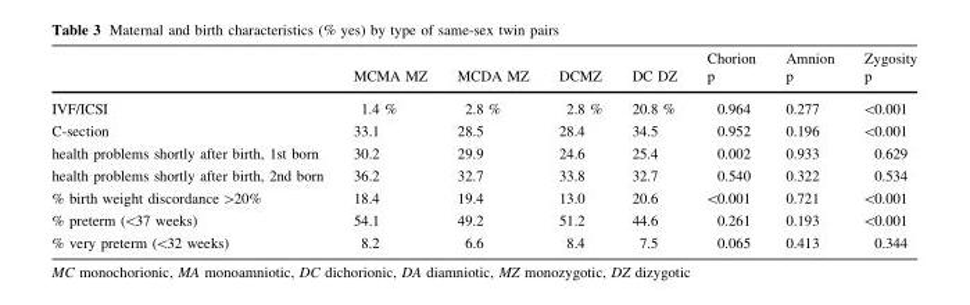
<table><thead><tr><td rowspan="2"></td><td rowspan="2">MCMA MZ</td><td rowspan="2">MCDA MZ</td><td rowspan="2">DCMZ</td><td rowspan="2">DC DZ</td><td rowspan="2">Chorion p</td><td rowspan="2">Amnion p</td><td rowspan="2">Zygosity p</td></tr><tr></tr></thead><tbody><tr><td>IVF/ICSI</td><td>1.4 %</td><td>2.8 %</td><td>2.8 %</td><td>20.8 %</td><td>0.964</td><td>0.277</td><td>&lt;0.001</td></tr><tr><td>C-section</td><td>33.1</td><td>28.5</td><td>28.4</td><td>34.5</td><td>0.952</td><td>0.196</td><td>&lt;0.001</td></tr><tr><td>health problems shortly after birth, 1st born</td><td>30.2</td><td>29.9</td><td>24.6</td><td>25.4</td><td>0.002</td><td>0.933</td><td>0.629</td></tr><tr><td>health problems shortly after birth, 2nd born</td><td>36.2</td><td>32.7</td><td>33.8</td><td>32.7</td><td>0.540</td><td>0.322</td><td>0.534</td></tr><tr><td>% birth weight discordance &gt;20%</td><td>18.4</td><td>19.4</td><td>13.0</td><td>20.6</td><td>&lt;0.001</td><td>0.721</td><td>&lt;0.001</td></tr><tr><td>% preterm (&lt;37 weeks)</td><td>54.1</td><td>49.2</td><td>51.2</td><td>44.6</td><td>0.261</td><td>0.193</td><td>&lt;0.001</td></tr><tr><td>% very preterm (&lt;32 weeks)</td><td>8.2</td><td>6.6</td><td>8.4</td><td>7.5</td><td>0.065</td><td>0.413</td><td>0.344</td></tr></tbody></table>